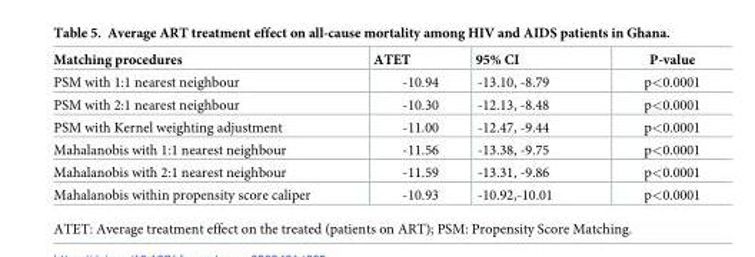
<table><thead><tr><td>Matching procedures</td><td>ATET</td><td>95% CI</td><td>P-value</td></tr></thead><tbody><tr><td>PSM with 1:1 nearest neighbour</td><td>-10.94</td><td>-13.10, -8.79</td><td>p&lt;0.0001</td></tr><tr><td>PSM with 2:1 nearest neighbour</td><td>-10.30</td><td>-12.13, -8.48</td><td>p&lt;0.0001</td></tr><tr><td>PSM with Kernel weighting adjustment</td><td>-11.00</td><td>-12.47, -9.44</td><td>p&lt;0.0001</td></tr><tr><td>Mahalanobis with 1:1 nearest neighbour</td><td>-11.56</td><td>-13.38, -9.75</td><td>p&lt;0.0001</td></tr><tr><td>Mahalanobis with 2:1 nearest neighbour</td><td>-11.59</td><td>-13.31, -9.86</td><td>p&lt;0.0001</td></tr><tr><td>Mahalanobis within propensity score caliper</td><td>-10.93</td><td>-10.92,-10.01</td><td>p&lt;0.0001</td></tr></tbody></table>